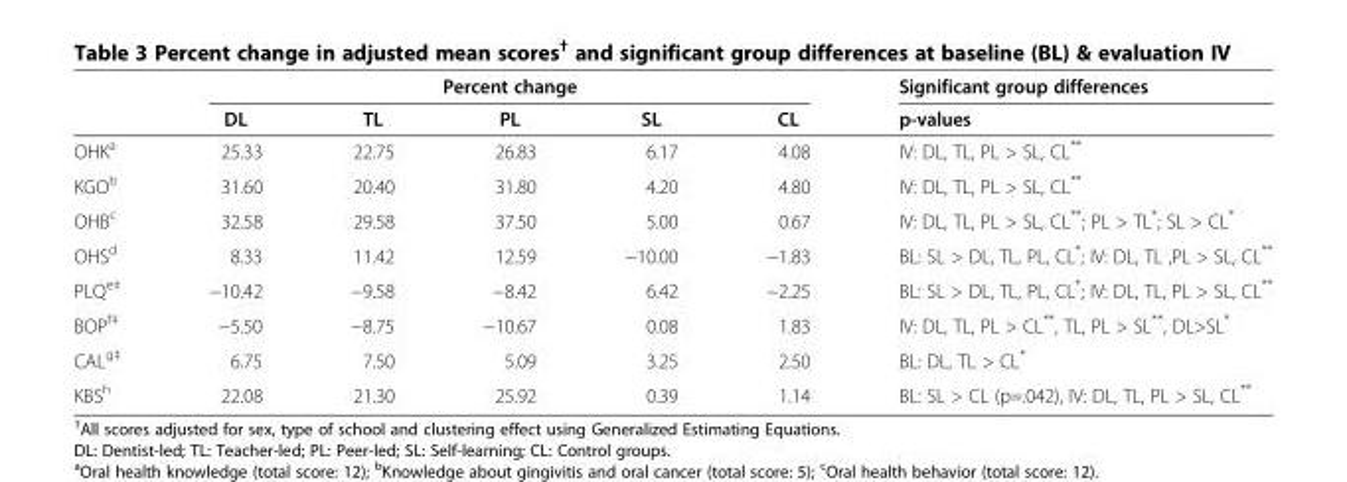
<table><thead><tr><td rowspan="2"></td><td colspan="5">Percent change</td><td rowspan="2">Significant group differences p-values</td></tr><tr><td>DL</td><td>TL</td><td>PL</td><td>SL</td><td>CL</td></tr></thead><tbody><tr><td>OHK<sup>a</sup></td><td>25.33</td><td>22.75</td><td>26.83</td><td>6.17</td><td>4.08</td><td>IV: DL, TL, PL &gt; SL, CL**</td></tr><tr><td>KGO<sup>b</sup></td><td>31.60</td><td>20.40</td><td>31.80</td><td>4.20</td><td>4.80</td><td>IV: DL, TL, PL &gt; SL, CL**</td></tr><tr><td>OHB<sup>c</sup></td><td>32.58</td><td>29.58</td><td>37.50</td><td>5.00</td><td>0.67</td><td>IV: DL, TL, PL &gt; SL, CL**; PL &gt; TL*; SL &gt; CL*</td></tr><tr><td>OHS<sup>d</sup></td><td>8.33</td><td>11.42</td><td>12.59</td><td>−10.00</td><td>−1.83</td><td>BL: SL &gt; DL, TL, PL, CL*; IV: DL, TL ,PL &gt; SL, CL**</td></tr><tr><td>PLQ<sup>e‡</sup></td><td>−10.42</td><td>−9.58</td><td>−8.42</td><td>6.42</td><td>−2.25</td><td>BL: SL &gt; DL, TL, PL, CL*; IV: DL, TL, PL &gt; SL, CL**</td></tr><tr><td>BOP<sup>f‡</sup></td><td>−5.50</td><td>−8.75</td><td>−10.67</td><td>0.08</td><td>1.83</td><td>IV: DL, TL, PL &gt; CL**, TL, PL &gt; SL**, DL&gt;SL*</td></tr><tr><td>CAL<sup>g‡</sup></td><td>6.75</td><td>7.50</td><td>5.09</td><td>3.25</td><td>2.50</td><td>BL: DL, TL &gt; CL*</td></tr><tr><td>KBS<sup>h</sup></td><td>22.08</td><td>21.30</td><td>25.92</td><td>0.39</td><td>1.14</td><td>BL: SL &gt; CL (p=.042), IV: DL, TL, PL &gt; SL, CL**</td></tr></tbody></table>